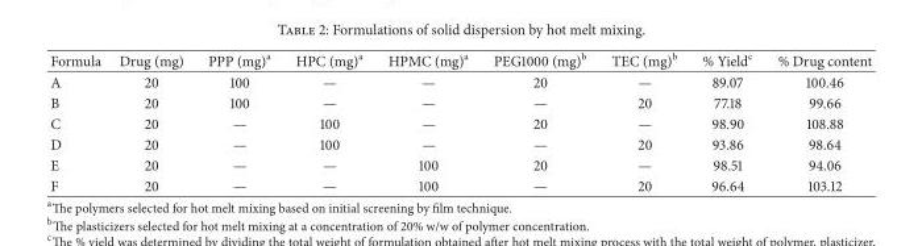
<table><thead><tr><td>Formula</td><td>Drug (mg)</td><td>PPP (mg)<sup>a</sup></td><td>HPC (mg)<sup>a</sup></td><td>HPMC (mg)<sup>a</sup></td><td>PEG1000 (mg)<sup>b</sup></td><td>TEC (mg)<sup>b</sup></td><td>% Yield<sup>c</sup></td><td>% Drug content</td></tr></thead><tbody><tr><td>A</td><td>20</td><td>100</td><td>—</td><td>—</td><td>20</td><td>—</td><td>89.07</td><td>100.46</td></tr><tr><td>B</td><td>20</td><td>100</td><td>—</td><td>—</td><td>—</td><td>20</td><td>77.18</td><td>99.66</td></tr><tr><td>C</td><td>20</td><td>—</td><td>100</td><td>—</td><td>20</td><td>—</td><td>98.90</td><td>108.88</td></tr><tr><td>D</td><td>20</td><td>—</td><td>100</td><td>—</td><td>—</td><td>20</td><td>93.86</td><td>98.64</td></tr><tr><td>E</td><td>20</td><td>—</td><td>—</td><td>100</td><td>20</td><td>—</td><td>98.51</td><td>94.06</td></tr><tr><td>F</td><td>20</td><td>—</td><td>—</td><td>100</td><td>—</td><td>20</td><td>96.64</td><td>103.12</td></tr></tbody></table>